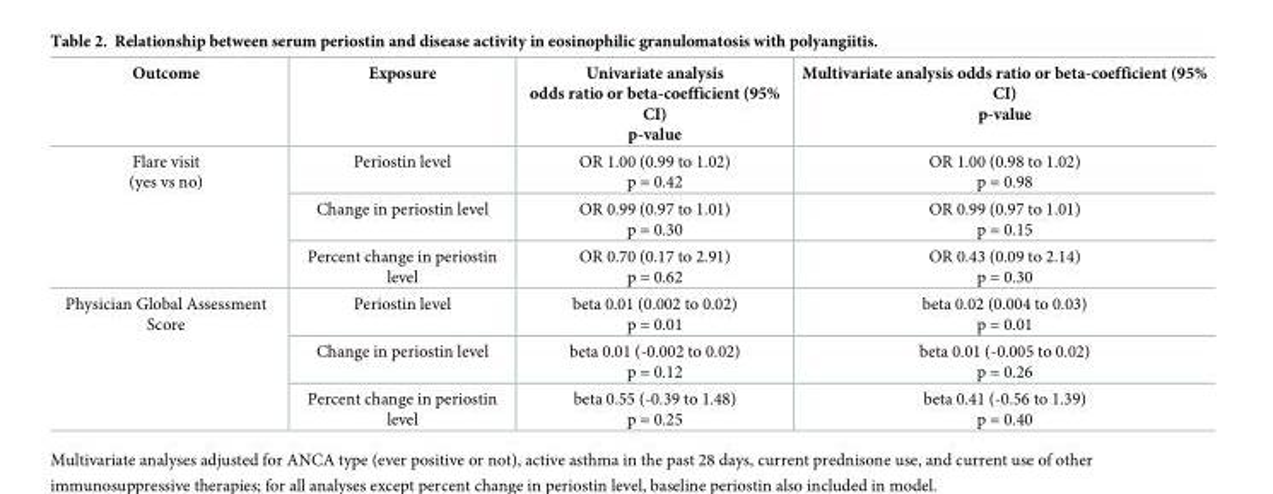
<table><thead><tr><td>Outcome</td><td>Exposure</td><td>Univariate analysis odds ratio or beta-coefficient (95% CI) p-value</td><td>Multivariate analysis odds ratio or beta-coefficient (95% CI) p-value</td></tr></thead><tbody><tr><td rowspan="3">Flare visit (yes vs no)</td><td>Periostin level</td><td>OR 1.00 (0.99 to 1.02) p = 0.42</td><td>OR 1.00 (0.98 to 1.02) p = 0.98</td></tr><tr><td>Change in periostin level</td><td>OR 0.99 (0.97 to 1.01) p = 0.30</td><td>OR 0.99 (0.97 to 1.01) p = 0.15</td></tr><tr><td>Percent change in periostin level</td><td>OR 0.70 (0.17 to 2.91) p = 0.62</td><td>OR 0.43 (0.09 to 2.14) p = 0.30</td></tr><tr><td rowspan="3">Physician Global Assessment Score</td><td>Periostin level</td><td>beta 0.01 (0.002 to 0.02) p = 0.01</td><td>beta 0.02 (0.004 to 0.03) p = 0.01</td></tr><tr><td>Change in periostin level</td><td>beta 0.01 (-0.002 to 0.02) p = 0.12</td><td>beta 0.01 (-0.005 to 0.02) p = 0.26</td></tr><tr><td>Percent change in periostin level</td><td>beta 0.55 (-0.39 to 1.48) p = 0.25</td><td>beta 0.41 (-0.56 to 1.39) p = 0.40</td></tr></tbody></table>